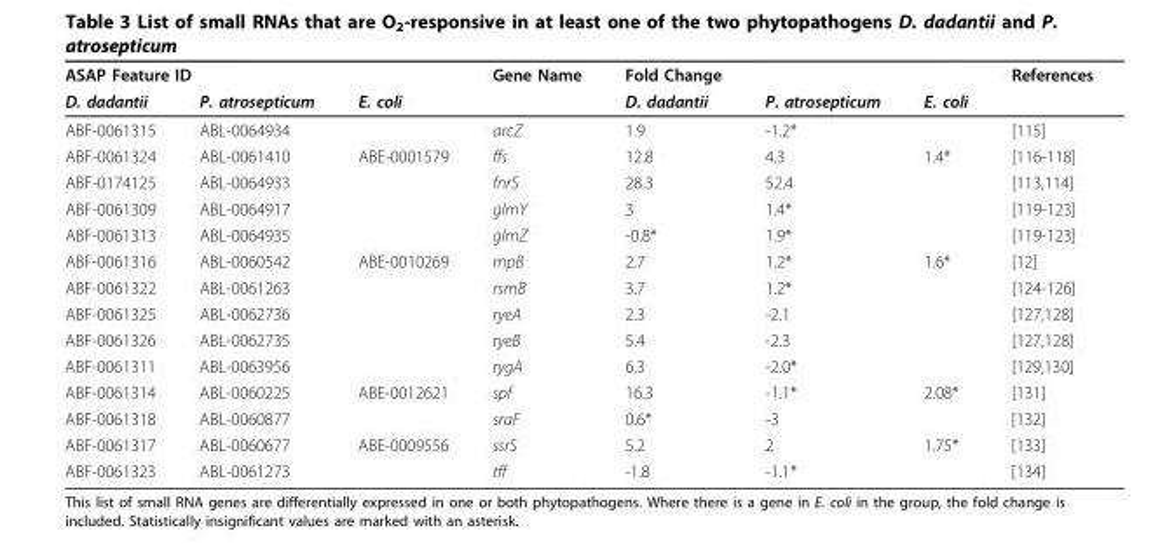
<table><thead><tr><td colspan="3">ASAP Feature ID</td><td rowspan="2">Gene Name</td><td rowspan="2">Fold Change D. dadantii</td><td rowspan="2">P. atrosepticum</td><td rowspan="2">E. coli</td><td rowspan="2">References</td></tr><tr><td>D. dadantii</td><td>P. atrosepticum</td><td>E. coli</td></tr></thead><tbody><tr><td>ABF-0061315</td><td>ABL-0064934</td><td></td><td>arcZ</td><td>1.9</td><td>-1.2*</td><td></td><td>[115]</td></tr><tr><td>ABF-0061324</td><td>ABL-0061410</td><td>ABE-0001579</td><td>ffs</td><td>12.8</td><td>4.3</td><td>1.4*</td><td>[116-118]</td></tr><tr><td>ABF-0174125</td><td>ABL-0064933</td><td></td><td>fnrS</td><td>28.3</td><td>52.4</td><td></td><td>[113,114]</td></tr><tr><td>ABF-0061309</td><td>ABL-0064917</td><td></td><td>glmY</td><td>3</td><td>1.4*</td><td></td><td>[119-123]</td></tr><tr><td>ABF-0061313</td><td>ABL-0064935</td><td></td><td>glmZ</td><td>-0.8*</td><td>1.9*</td><td></td><td>[119-123]</td></tr><tr><td>ABF-0061316</td><td>ABL-0060542</td><td>ABE-0010269</td><td>rnpB</td><td>2.7</td><td>1.2*</td><td>1.6*</td><td>[12]</td></tr><tr><td>ABF-0061322</td><td>ABL-0061263</td><td></td><td>rsmB</td><td>3.7</td><td>1.2*</td><td></td><td>[124-126]</td></tr><tr><td>ABF-0061325</td><td>ABL-0062736</td><td></td><td>ryeA</td><td>2.3</td><td>-2.1</td><td></td><td>[127,128]</td></tr><tr><td>ABF-0061326</td><td>ABL-0062735</td><td></td><td>ryeB</td><td>5.4</td><td>-2.3</td><td></td><td>[127,128]</td></tr><tr><td>ABF-0061311</td><td>ABL-0063956</td><td></td><td>rygA</td><td>6.3</td><td>-2.0*</td><td></td><td>[129,130]</td></tr><tr><td>ABF-0061314</td><td>ABL-0060225</td><td>ABE-0012621</td><td>spf</td><td>16.3</td><td>-1.1*</td><td>2.08*</td><td>[131]</td></tr><tr><td>ABF-0061318</td><td>ABL-0060877</td><td></td><td>sraF</td><td>0.6*</td><td>-3</td><td></td><td>[132]</td></tr><tr><td>ABF-0061317</td><td>ABL-0060677</td><td>ABE-0009556</td><td>ssrS</td><td>5.2</td><td>2</td><td>1.75*</td><td>[133]</td></tr><tr><td>ABF-0061323</td><td>ABL-0061273</td><td></td><td>tff</td><td>-1.8</td><td>-1.1*</td><td></td><td>[134]</td></tr></tbody></table>